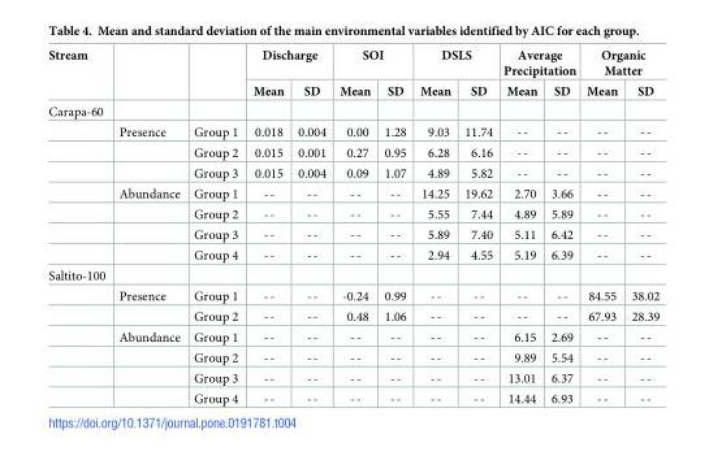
<table><thead><tr><td rowspan="2">Stream</td><td rowspan="2"></td><td rowspan="2"></td><td colspan="2">Discharge</td><td colspan="2">SOI</td><td colspan="2">DSLS</td><td colspan="2">Average Precipitation</td><td colspan="2">Organic Matter</td></tr><tr><td>Mean</td><td>SD</td><td>Mean</td><td>SD</td><td>Mean</td><td>SD</td><td>Mean</td><td>SD</td><td>Mean</td><td>SD</td></tr></thead><tbody><tr><td colspan="13">Carapa-60</td></tr><tr><td></td><td>Presence</td><td>Group 1</td><td>0.018</td><td>0.004</td><td>0.00</td><td>1.28</td><td>9.03</td><td>11.74</td><td>--</td><td>--</td><td>--</td><td>--</td></tr><tr><td></td><td></td><td>Group 2</td><td>0.015</td><td>0.001</td><td>0.27</td><td>0.95</td><td>6.28</td><td>6.16</td><td>--</td><td>--</td><td>--</td><td>--</td></tr><tr><td></td><td></td><td>Group 3</td><td>0.015</td><td>0.004</td><td>0.09</td><td>1.07</td><td>4.89</td><td>5.82</td><td>--</td><td>--</td><td>--</td><td>--</td></tr><tr><td></td><td>Abundance</td><td>Group 1</td><td>--</td><td>--</td><td>--</td><td>--</td><td>14.25</td><td>19.62</td><td>2.70</td><td>3.66</td><td>--</td><td>--</td></tr><tr><td></td><td></td><td>Group 2</td><td>--</td><td>--</td><td>--</td><td>--</td><td>5.55</td><td>7.44</td><td>4.89</td><td>5.89</td><td>--</td><td>--</td></tr><tr><td></td><td></td><td>Group 3</td><td>--</td><td>--</td><td>--</td><td>--</td><td>5.89</td><td>7.40</td><td>5.11</td><td>6.42</td><td>--</td><td>--</td></tr><tr><td></td><td></td><td>Group 4</td><td>--</td><td>--</td><td>--</td><td>--</td><td>2.94</td><td>4.55</td><td>5.19</td><td>6.39</td><td>--</td><td>--</td></tr><tr><td colspan="13">Saltito-100</td></tr><tr><td></td><td>Presence</td><td>Group 1</td><td>--</td><td>--</td><td>-0.24</td><td>0.99</td><td>--</td><td>--</td><td>--</td><td>--</td><td>84.55</td><td>38.02</td></tr><tr><td></td><td></td><td>Group 2</td><td>--</td><td>--</td><td>0.48</td><td>1.06</td><td>--</td><td>--</td><td>--</td><td>--</td><td>67.93</td><td>28.39</td></tr><tr><td></td><td>Abundance</td><td>Group 1</td><td>--</td><td>--</td><td>--</td><td>--</td><td>--</td><td>--</td><td>6.15</td><td>2.69</td><td>--</td><td>--</td></tr><tr><td></td><td></td><td>Group 2</td><td>--</td><td>--</td><td>--</td><td>--</td><td>--</td><td>--</td><td>9.89</td><td>5.54</td><td>--</td><td>--</td></tr><tr><td></td><td></td><td>Group 3</td><td>--</td><td>--</td><td>--</td><td>--</td><td>--</td><td>--</td><td>13.01</td><td>6.37</td><td>--</td><td>--</td></tr><tr><td></td><td></td><td>Group 4</td><td>--</td><td>--</td><td>--</td><td>--</td><td>--</td><td>--</td><td>14.44</td><td>6.93</td><td>--</td><td>--</td></tr></tbody></table>